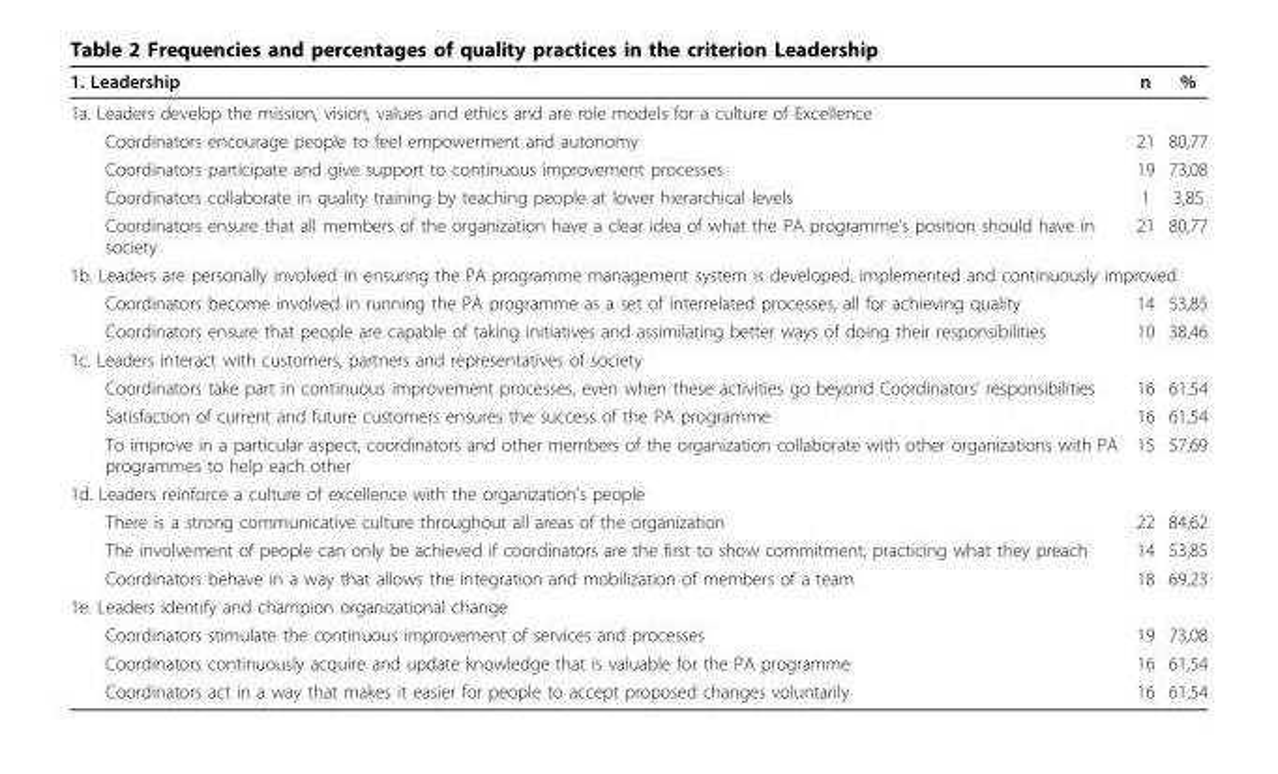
<table><thead><tr><td>1. Leadership</td><td>n</td><td>%</td></tr></thead><tbody><tr><td colspan="3">1a. Leaders develop the mission, vision, values and ethics and are role models for a culture of Excellence</td></tr><tr><td>Coordinators encourage people to feel empowerment and autonomy</td><td>21</td><td>80,77</td></tr><tr><td>Coordinators participate and give support to continuous improvement processes</td><td>19</td><td>73,08</td></tr><tr><td>Coordinators collaborate in quality training by teaching people at lower hierarchical levels</td><td>1</td><td>3,85</td></tr><tr><td>Coordinators ensure that all members of the organization have a clear idea of what the PA programme’s position should have in society</td><td>21</td><td>80,77</td></tr><tr><td colspan="3">1b. Leaders are personally involved in ensuring the PA programme management system is developed, implemented and continuously improved</td></tr><tr><td>Coordinators become involved in running the PA programme as a set of interrelated processes, all for achieving quality</td><td>14</td><td>53,85</td></tr><tr><td>Coordinators ensure that people are capable of taking initiatives and assimilating better ways of doing their responsibilities</td><td>10</td><td>38,46</td></tr><tr><td colspan="3">1c. Leaders interact with customers, partners and representatives of society</td></tr><tr><td>Coordinators take part in continuous improvement processes, even when these activities go beyond Coordinators’ responsibilities</td><td>16</td><td>61,54</td></tr><tr><td>Satisfaction of current and future customers ensures the success of the PA programme</td><td>16</td><td>61,54</td></tr><tr><td>To improve in a particular aspect, coordinators and other members of the organization collaborate with other organizations with PA programmes to help each other</td><td>15</td><td>57,69</td></tr><tr><td colspan="3">1d. Leaders reinforce a culture of excellence with the organization’s people</td></tr><tr><td>There is a strong communicative culture throughout all areas of the organization</td><td>22</td><td>84,62</td></tr><tr><td>The involvement of people can only be achieved if coordinators are the first to show commitment, practicing what they preach</td><td>14</td><td>53,85</td></tr><tr><td>Coordinators behave in a way that allows the integration and mobilization of members of a team</td><td>18</td><td>69,23</td></tr><tr><td colspan="3">1e. Leaders identify and champion organizational change</td></tr><tr><td>Coordinators stimulate the continuous improvement of services and processes</td><td>19</td><td>73,08</td></tr><tr><td>Coordinators continuously acquire and update knowledge that is valuable for the PA programme</td><td>16</td><td>61,54</td></tr><tr><td>Coordinators act in a way that makes it easier for people to accept proposed changes voluntarily</td><td>16</td><td>61,54</td></tr></tbody></table>